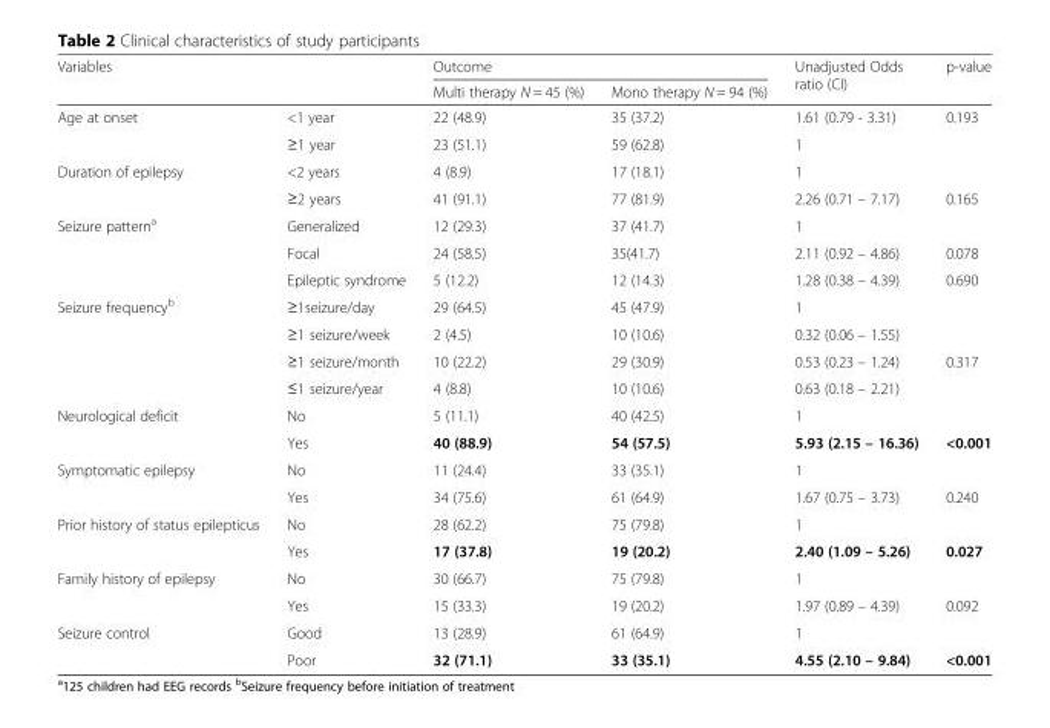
<table><thead><tr><td rowspan="2">Variables</td><td rowspan="2"></td><td colspan="2">Outcome</td><td rowspan="2">Unadjusted Odds ratio (CI)</td><td rowspan="2">p-value</td></tr><tr><td>Multi therapy N = 45 (%)</td><td>Mono therapy N = 94 (%)</td></tr></thead><tbody><tr><td rowspan="2">Age at onset</td><td>&lt;1 year</td><td>22 (48.9)</td><td>35 (37.2)</td><td>1.61 (0.79 - 3.31)</td><td>0.193</td></tr><tr><td>≥1 year</td><td>23 (51.1)</td><td>59 (62.8)</td><td>1</td><td></td></tr><tr><td rowspan="2">Duration of epilepsy</td><td>&lt;2 years</td><td>4 (8.9)</td><td>17 (18.1)</td><td>1</td><td></td></tr><tr><td>≥2 years</td><td>41 (91.1)</td><td>77 (81.9)</td><td>2.26 (0.71 – 7.17)</td><td>0.165</td></tr><tr><td rowspan="3">Seizure pattern<sup>a</sup></td><td>Generalized</td><td>12 (29.3)</td><td>37 (41.7)</td><td>1</td><td></td></tr><tr><td>Focal</td><td>24 (58.5)</td><td>35(41.7)</td><td>2.11 (0.92 – 4.86)</td><td>0.078</td></tr><tr><td>Epileptic syndrome</td><td>5 (12.2)</td><td>12 (14.3)</td><td>1.28 (0.38 – 4.39)</td><td>0.690</td></tr><tr><td rowspan="4">Seizure frequency<sup>b</sup></td><td>≥1seizure/day</td><td>29 (64.5)</td><td>45 (47.9)</td><td>1</td><td></td></tr><tr><td>≥1 seizure/week</td><td>2 (4.5)</td><td>10 (10.6)</td><td>0.32 (0.06 – 1.55)</td><td></td></tr><tr><td>≥1 seizure/month</td><td>10 (22.2)</td><td>29 (30.9)</td><td>0.53 (0.23 – 1.24)</td><td>0.317</td></tr><tr><td>≤1 seizure/year</td><td>4 (8.8)</td><td>10 (10.6)</td><td>0.63 (0.18 – 2.21)</td><td></td></tr><tr><td rowspan="2">Neurological deficit</td><td>No</td><td>5 (11.1)</td><td>40 (42.5)</td><td>1</td><td></td></tr><tr><td>Yes</td><td>40 (88.9)</td><td>54 (57.5)</td><td>5.93 (2.15 – 16.36)</td><td>&lt;0.001</td></tr><tr><td rowspan="2">Symptomatic epilepsy</td><td>No</td><td>11 (24.4)</td><td>33 (35.1)</td><td>1</td><td></td></tr><tr><td>Yes</td><td>34 (75.6)</td><td>61 (64.9)</td><td>1.67 (0.75 – 3.73)</td><td>0.240</td></tr><tr><td rowspan="2">Prior history of status epilepticus</td><td>No</td><td>28 (62.2)</td><td>75 (79.8)</td><td>1</td><td></td></tr><tr><td>Yes</td><td>17 (37.8)</td><td>19 (20.2)</td><td>2.40 (1.09 – 5.26)</td><td>0.027</td></tr><tr><td rowspan="2">Family history of epilepsy</td><td>No</td><td>30 (66.7)</td><td>75 (79.8)</td><td>1</td><td></td></tr><tr><td>Yes</td><td>15 (33.3)</td><td>19 (20.2)</td><td>1.97 (0.89 – 4.39)</td><td>0.092</td></tr><tr><td rowspan="2">Seizure control</td><td>Good</td><td>13 (28.9)</td><td>61 (64.9)</td><td>1</td><td></td></tr><tr><td>Poor</td><td>32 (71.1)</td><td>33 (35.1)</td><td>4.55 (2.10 – 9.84)</td><td>&lt;0.001</td></tr></tbody></table>